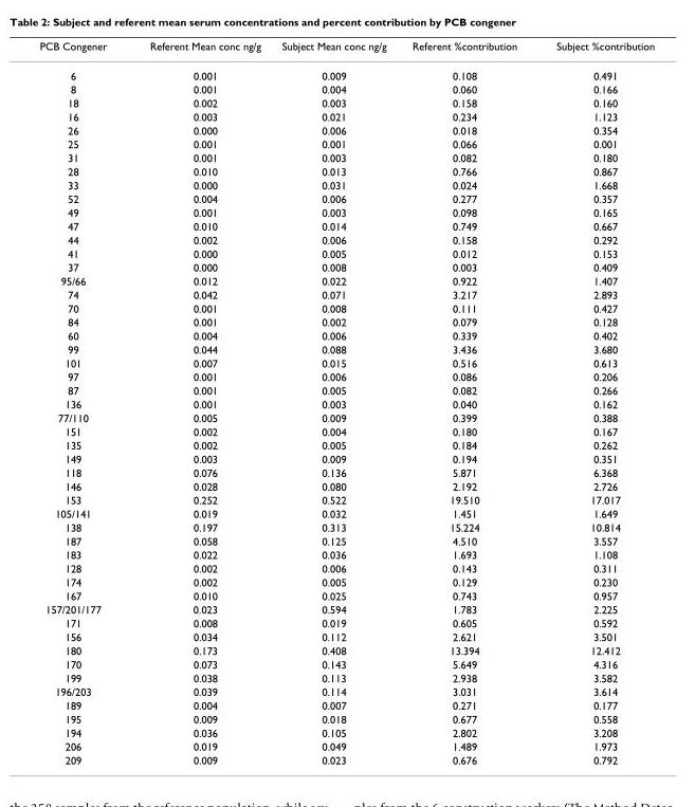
<table><thead><tr><td>PCB Congener</td><td>Referent Mean conc ng/g</td><td>Subject Mean conc ng/g</td><td>Referent %contribution</td><td>Subject %contribution</td></tr></thead><tbody><tr><td>6</td><td>0.001</td><td>0.009</td><td>0.108</td><td>0.491</td></tr><tr><td>8</td><td>0.001</td><td>0.004</td><td>0.060</td><td>0.166</td></tr><tr><td>18</td><td>0.002</td><td>0.003</td><td>0.158</td><td>0.160</td></tr><tr><td>16</td><td>0.003</td><td>0.021</td><td>0.234</td><td>1.123</td></tr><tr><td>26</td><td>0.000</td><td>0.006</td><td>0.018</td><td>0.354</td></tr><tr><td>25</td><td>0.001</td><td>0.001</td><td>0.066</td><td>0.001</td></tr><tr><td>31</td><td>0.001</td><td>0.003</td><td>0.082</td><td>0.180</td></tr><tr><td>28</td><td>0.010</td><td>0.013</td><td>0.766</td><td>0.867</td></tr><tr><td>33</td><td>0.000</td><td>0.031</td><td>0.024</td><td>1.668</td></tr><tr><td>52</td><td>0.004</td><td>0.006</td><td>0.277</td><td>0.357</td></tr><tr><td>49</td><td>0.001</td><td>0.003</td><td>0.098</td><td>0.165</td></tr><tr><td>47</td><td>0.010</td><td>0.014</td><td>0.749</td><td>0.667</td></tr><tr><td>44</td><td>0.002</td><td>0.006</td><td>0.158</td><td>0.292</td></tr><tr><td>41</td><td>0.000</td><td>0.005</td><td>0.012</td><td>0.153</td></tr><tr><td>37</td><td>0.000</td><td>0.008</td><td>0.003</td><td>0.409</td></tr><tr><td>95/66</td><td>0.012</td><td>0.022</td><td>0.922</td><td>1.407</td></tr><tr><td>74</td><td>0.042</td><td>0.071</td><td>3.217</td><td>2.893</td></tr><tr><td>70</td><td>0.001</td><td>0.008</td><td>0.111</td><td>0.427</td></tr><tr><td>84</td><td>0.001</td><td>0.002</td><td>0.079</td><td>0.128</td></tr><tr><td>60</td><td>0.004</td><td>0.006</td><td>0.339</td><td>0.402</td></tr><tr><td>99</td><td>0.044</td><td>0.088</td><td>3.436</td><td>3.680</td></tr><tr><td>101</td><td>0.007</td><td>0.015</td><td>0.516</td><td>0.613</td></tr><tr><td>97</td><td>0.001</td><td>0.006</td><td>0.086</td><td>0.206</td></tr><tr><td>87</td><td>0.001</td><td>0.005</td><td>0.082</td><td>0.266</td></tr><tr><td>136</td><td>0.001</td><td>0.003</td><td>0.040</td><td>0.162</td></tr><tr><td>77/110</td><td>0.005</td><td>0.009</td><td>0.399</td><td>0.388</td></tr><tr><td>151</td><td>0.002</td><td>0.004</td><td>0.180</td><td>0.167</td></tr><tr><td>135</td><td>0.002</td><td>0.005</td><td>0.184</td><td>0.262</td></tr><tr><td>149</td><td>0.003</td><td>0.009</td><td>0.194</td><td>0.351</td></tr><tr><td>118</td><td>0.076</td><td>0.136</td><td>5.871</td><td>6.368</td></tr><tr><td>146</td><td>0.028</td><td>0.080</td><td>2.192</td><td>2.726</td></tr><tr><td>153</td><td>0.252</td><td>0.522</td><td>19.510</td><td>17.017</td></tr><tr><td>105/141</td><td>0.019</td><td>0.032</td><td>1.451</td><td>1.649</td></tr><tr><td>138</td><td>0.197</td><td>0.313</td><td>15.224</td><td>10.814</td></tr><tr><td>187</td><td>0.058</td><td>0.125</td><td>4.510</td><td>3.557</td></tr><tr><td>183</td><td>0.022</td><td>0.036</td><td>1.693</td><td>1.108</td></tr><tr><td>128</td><td>0.002</td><td>0.006</td><td>0.143</td><td>0.311</td></tr><tr><td>174</td><td>0.002</td><td>0.005</td><td>0.129</td><td>0.230</td></tr><tr><td>167</td><td>0.010</td><td>0.025</td><td>0.743</td><td>0.957</td></tr><tr><td>157/201/177</td><td>0.023</td><td>0.594</td><td>1.783</td><td>2.225</td></tr><tr><td>171</td><td>0.008</td><td>0.019</td><td>0.605</td><td>0.592</td></tr><tr><td>156</td><td>0.034</td><td>0.112</td><td>2.621</td><td>3.501</td></tr><tr><td>180</td><td>0.173</td><td>0.408</td><td>13.394</td><td>12.412</td></tr><tr><td>170</td><td>0.073</td><td>0.143</td><td>5.649</td><td>4.316</td></tr><tr><td>199</td><td>0.038</td><td>0.113</td><td>2.938</td><td>3.582</td></tr><tr><td>196/203</td><td>0.039</td><td>0.114</td><td>3.031</td><td>3.614</td></tr><tr><td>189</td><td>0.004</td><td>0.007</td><td>0.271</td><td>0.177</td></tr><tr><td>195</td><td>0.009</td><td>0.018</td><td>0.677</td><td>0.558</td></tr><tr><td>194</td><td>0.036</td><td>0.105</td><td>2.802</td><td>3.208</td></tr><tr><td>206</td><td>0.019</td><td>0.049</td><td>1.489</td><td>1.973</td></tr><tr><td>209</td><td>0.009</td><td>0.023</td><td>0.676</td><td>0.792</td></tr></tbody></table>